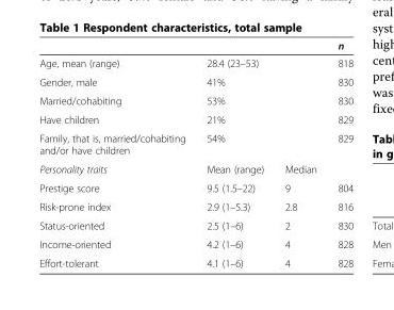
<table><thead><tr><td></td><td></td><td></td><td>n</td></tr></thead><tbody><tr><td>Age, mean (range)</td><td>28.4 (23–53)</td><td></td><td>818</td></tr><tr><td>Gender, male</td><td>41%</td><td></td><td>830</td></tr><tr><td>Married/cohabiting</td><td>53%</td><td></td><td>830</td></tr><tr><td>Have children</td><td>21%</td><td></td><td>829</td></tr><tr><td>Family, that is, married/cohabiting and/or have children</td><td>54%</td><td></td><td>829</td></tr><tr><td>Personality traits</td><td>Mean (range)</td><td>Median</td><td></td></tr><tr><td>Prestige score</td><td>9.5 (1.5–22)</td><td>9</td><td>804</td></tr><tr><td>Risk-prone index</td><td>2.9 (1–5.3)</td><td>2.8</td><td>816</td></tr><tr><td>Status-oriented</td><td>2.5 (1–6)</td><td>2</td><td>830</td></tr><tr><td>Income-oriented</td><td>4.2 (1–6)</td><td>4</td><td>828</td></tr><tr><td>Effort-tolerant</td><td>4.1 (1–6)</td><td>4</td><td>828</td></tr></tbody></table>